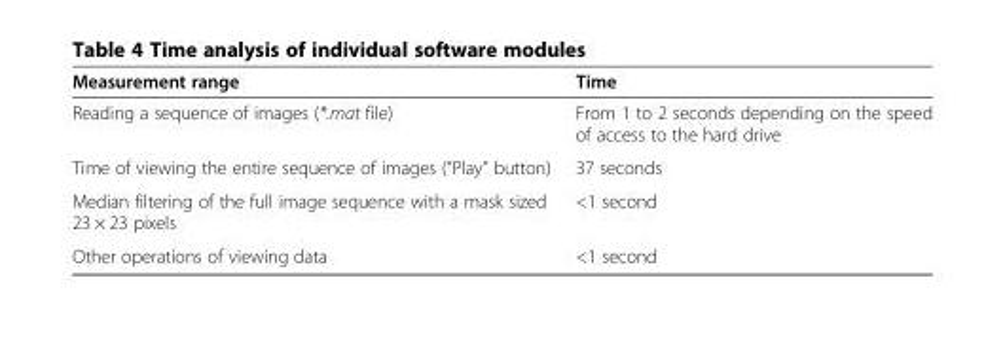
<table><thead><tr><td>Measurement range</td><td>Time</td></tr></thead><tbody><tr><td>Reading a sequence of images (*.mat file)</td><td>From 1 to 2 seconds depending on the speed of access to the hard drive</td></tr><tr><td>Time of viewing the entire sequence of images (“Play” button)</td><td>37 seconds</td></tr><tr><td>Median filtering of the full image sequence with a mask sized 23 × 23 pixels</td><td>&lt;1 second</td></tr><tr><td>Other operations of viewing data</td><td>&lt;1 second</td></tr></tbody></table>